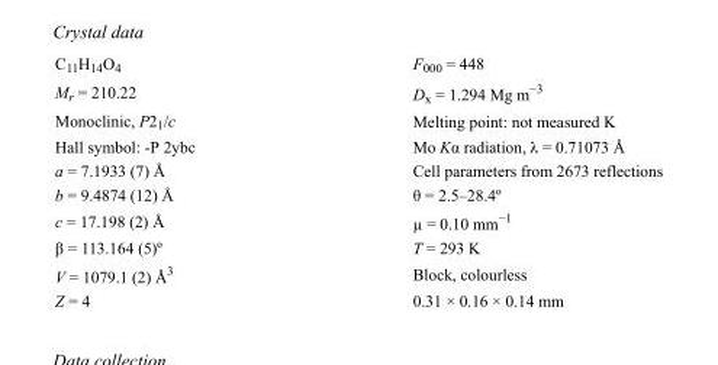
<table><tbody><tr><td>C<sub>11</sub>H<sub>14</sub>O<sub>4</sub></td><td>F000 = 448</td></tr><tr><td>M<sub>r</sub> = 210.22</td><td>D<sub>x</sub> = 1.294 Mg m<sup>−3</sup></td></tr><tr><td>Monoclinic, P2<sub>1</sub>/c</td><td>Melting point: not measured K</td></tr><tr><td>Hall symbol: -P 2ybc</td><td>Mo Kα radiation, λ = 0.71073 Å</td></tr><tr><td>a = 7.1933 (7) Å</td><td>Cell parameters from 2673 reflections</td></tr><tr><td>b = 9.4874 (12) Å</td><td>θ = 2.5–28.4º</td></tr><tr><td>c = 17.198 (2) Å</td><td>µ = 0.10 mm<sup>−1</sup></td></tr><tr><td>β = 113.164 (5)º</td><td>T = 293 K</td></tr><tr><td>V = 1079.1 (2) Å<sup>3</sup></td><td>Block, colourless</td></tr><tr><td>Z = 4</td><td>0.31 × 0.16 × 0.14 mm</td></tr></tbody></table>